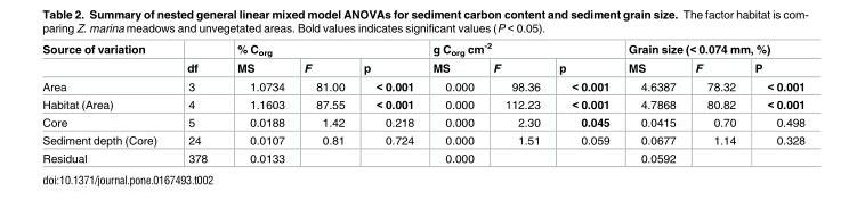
<table><thead><tr><td rowspan="2">Source of variation</td><td rowspan="2">df</td><td colspan="3">% C<sub>org</sub></td><td colspan="3">g C<sub>org</sub> cm<sup>-2</sup></td><td colspan="3">Grain size (&lt; 0.074 mm, %)</td></tr><tr><td>MS</td><td>F</td><td>p</td><td>MS</td><td>F</td><td>p</td><td>MS</td><td>F</td><td>P</td></tr></thead><tbody><tr><td>Area</td><td>3</td><td>1.0734</td><td>81.00</td><td>&lt; 0.001</td><td>0.000</td><td>98.36</td><td>&lt; 0.001</td><td>4.6387</td><td>78.32</td><td>&lt; 0.001</td></tr><tr><td>Habitat (Area)</td><td>4</td><td>1.1603</td><td>87.55</td><td>&lt; 0.001</td><td>0.000</td><td>112.23</td><td>&lt; 0.001</td><td>4.7868</td><td>80.82</td><td>&lt; 0.001</td></tr><tr><td>Core</td><td>5</td><td>0.0188</td><td>1.42</td><td>0.218</td><td>0.000</td><td>2.30</td><td>0.045</td><td>0.0415</td><td>0.70</td><td>0.498</td></tr><tr><td>Sediment depth (Core)</td><td>24</td><td>0.0107</td><td>0.81</td><td>0.724</td><td>0.000</td><td>1.51</td><td>0.059</td><td>0.0677</td><td>1.14</td><td>0.328</td></tr><tr><td>Residual</td><td>378</td><td>0.0133</td><td></td><td></td><td>0.000</td><td></td><td></td><td>0.0592</td><td></td><td></td></tr></tbody></table>